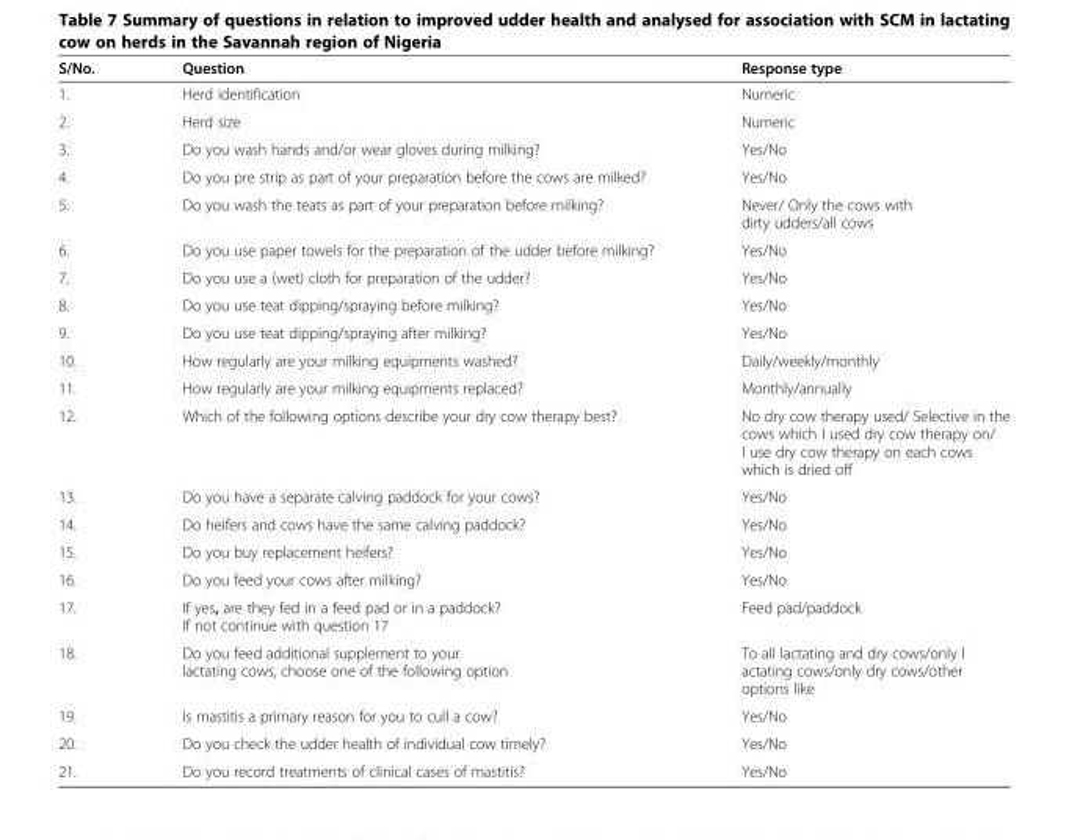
<table><thead><tr><td>S/No.</td><td>Question</td><td>Response type</td></tr></thead><tbody><tr><td>1.</td><td>Herd identification</td><td>Numeric</td></tr><tr><td>2.</td><td>Herd size</td><td>Numeric</td></tr><tr><td>3.</td><td>Do you wash hands and/or wear gloves during milking?</td><td>Yes/No</td></tr><tr><td>4.</td><td>Do you pre strip as part of your preparation before the cows are milked?</td><td>Yes/No</td></tr><tr><td>5.</td><td>Do you wash the teats as part of your preparation before milking?</td><td>Never/ Only the cows with dirty udders/all cows</td></tr><tr><td>6.</td><td>Do you use paper towels for the preparation of the udder before milking?</td><td>Yes/No</td></tr><tr><td>7.</td><td>Do you use a (wet) cloth for preparation of the udder?</td><td>Yes/No</td></tr><tr><td>8.</td><td>Do you use teat dipping/spraying before milking?</td><td>Yes/No</td></tr><tr><td>9.</td><td>Do you use teat dipping/spraying after milking?</td><td>Yes/No</td></tr><tr><td>10.</td><td>How regularly are your milking equipments washed?</td><td>Daily/weekly/monthly</td></tr><tr><td>11.</td><td>How regularly are your milking equipments replaced?</td><td>Monthly/annually</td></tr><tr><td>12.</td><td>Which of the following options describe your dry cow therapy best?</td><td>No dry cow therapy used/ Selective in the cows which I used dry cow therapy on/ I use dry cow therapy on each cows which is dried off</td></tr><tr><td>13.</td><td>Do you have a separate calving paddock for your cows?</td><td>Yes/No</td></tr><tr><td>14.</td><td>Do heifers and cows have the same calving paddock?</td><td>Yes/No</td></tr><tr><td>15.</td><td>Do you buy replacement heifers?</td><td>Yes/No</td></tr><tr><td>16.</td><td>Do you feed your cows after milking?</td><td>Yes/No</td></tr><tr><td>17.</td><td>If yes, are they fed in a feed pad or in a paddock? If not continue with question 17</td><td>Feed pad/paddock</td></tr><tr><td>18.</td><td>Do you feed additional supplement to your lactating cows, choose one of the following option</td><td>To all lactating and dry cows/only l actating cows/only dry cows/other options like</td></tr><tr><td>19.</td><td>Is mastitis a primary reason for you to cull a cow?</td><td>Yes/No</td></tr><tr><td>20.</td><td>Do you check the udder health of individual cow timely?</td><td>Yes/No</td></tr><tr><td>21.</td><td>Do you record treatments of clinical cases of mastitis?</td><td>Yes/No</td></tr></tbody></table>